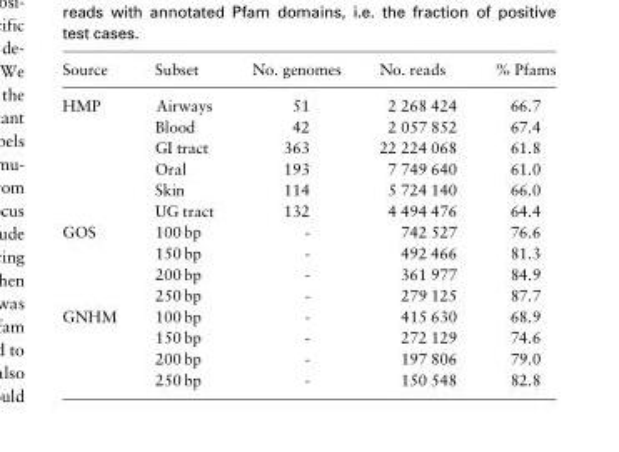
<table><thead><tr><td>Source</td><td>Subset</td><td>No. genomes</td><td>No. reads</td><td>% Pfams</td></tr></thead><tbody><tr><td rowspan="6">HMP</td><td>Airways</td><td>51</td><td>2 268 424</td><td>66.7</td></tr><tr><td>Blood</td><td>42</td><td>2 057 852</td><td>67.4</td></tr><tr><td>GI tract</td><td>363</td><td>22 224 068</td><td>61.8</td></tr><tr><td>Oral</td><td>193</td><td>7 749 640</td><td>61.0</td></tr><tr><td>Skin</td><td>114</td><td>5 724 140</td><td>66.0</td></tr><tr><td>UG tract</td><td>132</td><td>4 494 476</td><td>64.4</td></tr><tr><td rowspan="4">GOS</td><td>100 bp</td><td>-</td><td>742 527</td><td>76.6</td></tr><tr><td>150 bp</td><td>-</td><td>492 466</td><td>81.3</td></tr><tr><td>200 bp</td><td>-</td><td>361 977</td><td>84.9</td></tr><tr><td>250 bp</td><td>-</td><td>279 125</td><td>87.7</td></tr><tr><td rowspan="4">GNHM</td><td>100 bp</td><td>-</td><td>415 630</td><td>68.9</td></tr><tr><td>150 bp</td><td>-</td><td>272 129</td><td>74.6</td></tr><tr><td>200 bp</td><td>-</td><td>197 806</td><td>79.0</td></tr><tr><td>250 bp</td><td>-</td><td>150 548</td><td>82.8</td></tr></tbody></table>